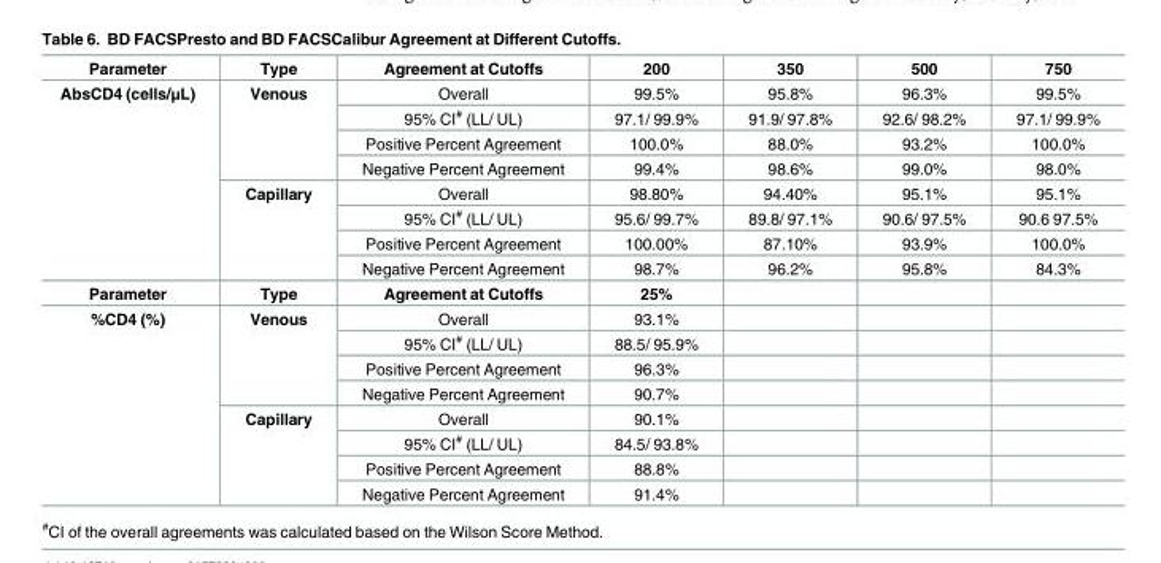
<table><tbody><tr><td>Parameter</td><td>Type</td><td>Agreement at Cutoffs</td><td>200</td><td>350</td><td>500</td><td>750</td></tr><tr><td rowspan="8">AbsCD4 (cells/μL)</td><td rowspan="4">Venous</td><td>Overall</td><td>99.5%</td><td>95.8%</td><td>96.3%</td><td>99.5%</td></tr><tr><td>95% CI<sup>#</sup> (LL/ UL)</td><td>97.1/ 99.9%</td><td>91.9/ 97.8%</td><td>92.6/ 98.2%</td><td>97.1/ 99.9%</td></tr><tr><td>Positive Percent Agreement</td><td>100.0%</td><td>88.0%</td><td>93.2%</td><td>100.0%</td></tr><tr><td>Negative Percent Agreement</td><td>99.4%</td><td>98.6%</td><td>99.0%</td><td>98.0%</td></tr><tr><td rowspan="4">Capillary</td><td>Overall</td><td>98.80%</td><td>94.40%</td><td>95.1%</td><td>95.1%</td></tr><tr><td>95% CI<sup>#</sup> (LL/ UL)</td><td>95.6/ 99.7%</td><td>89.8/ 97.1%</td><td>90.6/ 97.5%</td><td>90.6 97.5%</td></tr><tr><td>Positive Percent Agreement</td><td>100.00%</td><td>87.10%</td><td>93.9%</td><td>100.0%</td></tr><tr><td>Negative Percent Agreement</td><td>98.7%</td><td>96.2%</td><td>95.8%</td><td>84.3%</td></tr><tr><td>Parameter</td><td>Type</td><td>Agreement at Cutoffs</td><td>25%</td><td></td><td></td><td></td></tr><tr><td rowspan="8">%CD4 (%)</td><td rowspan="4">Venous</td><td>Overall</td><td>93.1%</td><td></td><td></td><td></td></tr><tr><td>95% CI<sup>#</sup> (LL/ UL)</td><td>88.5/ 95.9%</td><td></td><td></td><td></td></tr><tr><td>Positive Percent Agreement</td><td>96.3%</td><td></td><td></td><td></td></tr><tr><td>Negative Percent Agreement</td><td>90.7%</td><td></td><td></td><td></td></tr><tr><td rowspan="4">Capillary</td><td>Overall</td><td>90.1%</td><td></td><td></td><td></td></tr><tr><td>95% CI<sup>#</sup> (LL/ UL)</td><td>84.5/ 93.8%</td><td></td><td></td><td></td></tr><tr><td>Positive Percent Agreement</td><td>88.8%</td><td></td><td></td><td></td></tr><tr><td>Negative Percent Agreement</td><td>91.4%</td><td></td><td></td><td></td></tr></tbody></table>